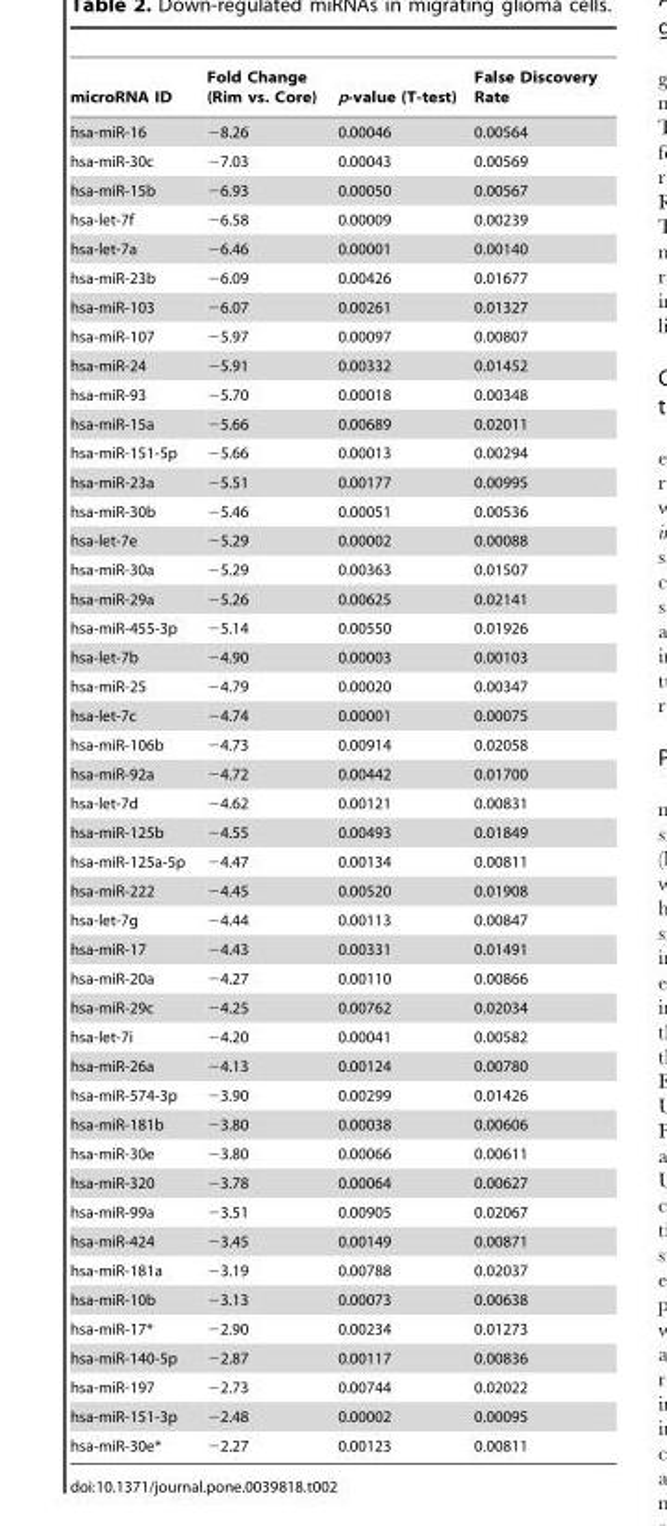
<table><thead><tr><td>microRNA ID</td><td>Fold Change (Rim vs. Core)</td><td>p-value (T-test)</td><td>False Discovery Rate</td></tr></thead><tbody><tr><td>hsa-miR-16</td><td>−8.26</td><td>0.00046</td><td>0.00564</td></tr><tr><td>hsa-miR-30c</td><td>−7.03</td><td>0.00043</td><td>0.00569</td></tr><tr><td>hsa-miR-15b</td><td>−6.93</td><td>0.00050</td><td>0.00567</td></tr><tr><td>hsa-let-7f</td><td>−6.58</td><td>0.00009</td><td>0.00239</td></tr><tr><td>hsa-let-7a</td><td>−6.46</td><td>0.00001</td><td>0.00140</td></tr><tr><td>hsa-miR-23b</td><td>−6.09</td><td>0.00426</td><td>0.01677</td></tr><tr><td>hsa-miR-103</td><td>−6.07</td><td>0.00261</td><td>0.01327</td></tr><tr><td>hsa-miR-107</td><td>−5.97</td><td>0.00097</td><td>0.00807</td></tr><tr><td>hsa-miR-24</td><td>−5.91</td><td>0.00332</td><td>0.01452</td></tr><tr><td>hsa-miR-93</td><td>−5.70</td><td>0.00018</td><td>0.00348</td></tr><tr><td>hsa-miR-15a</td><td>−5.66</td><td>0.00689</td><td>0.02011</td></tr><tr><td>hsa-miR-151-5p</td><td>−5.66</td><td>0.00013</td><td>0.00294</td></tr><tr><td>hsa-miR-23a</td><td>−5.51</td><td>0.00177</td><td>0.00995</td></tr><tr><td>hsa-miR-30b</td><td>−5.46</td><td>0.00051</td><td>0.00536</td></tr><tr><td>hsa-let-7e</td><td>−5.29</td><td>0.00002</td><td>0.00088</td></tr><tr><td>hsa-miR-30a</td><td>−5.29</td><td>0.00363</td><td>0.01507</td></tr><tr><td>hsa-miR-29a</td><td>−5.26</td><td>0.00625</td><td>0.02141</td></tr><tr><td>hsa-miR-455-3p</td><td>−5.14</td><td>0.00550</td><td>0.01926</td></tr><tr><td>hsa-let-7b</td><td>−4.90</td><td>0.00003</td><td>0.00103</td></tr><tr><td>hsa-miR-25</td><td>−4.79</td><td>0.00020</td><td>0.00347</td></tr><tr><td>hsa-let-7c</td><td>−4.74</td><td>0.00001</td><td>0.00075</td></tr><tr><td>hsa-miR-106b</td><td>−4.73</td><td>0.00914</td><td>0.02058</td></tr><tr><td>hsa-miR-92a</td><td>−4.72</td><td>0.00442</td><td>0.01700</td></tr><tr><td>hsa-let-7d</td><td>−4.62</td><td>0.00121</td><td>0.00831</td></tr><tr><td>hsa-miR-125b</td><td>−4.55</td><td>0.00493</td><td>0.01849</td></tr><tr><td>hsa-miR-125a-5p</td><td>−4.47</td><td>0.00134</td><td>0.00811</td></tr><tr><td>hsa-miR-222</td><td>−4.45</td><td>0.00520</td><td>0.01908</td></tr><tr><td>hsa-let-7g</td><td>−4.44</td><td>0.00113</td><td>0.00847</td></tr><tr><td>hsa-miR-17</td><td>−4.43</td><td>0.00331</td><td>0.01491</td></tr><tr><td>hsa-miR-20a</td><td>−4.27</td><td>0.00110</td><td>0.00866</td></tr><tr><td>hsa-miR-29c</td><td>−4.25</td><td>0.00762</td><td>0.02034</td></tr><tr><td>hsa-let-7i</td><td>−4.20</td><td>0.00041</td><td>0.00582</td></tr><tr><td>hsa-miR-26a</td><td>−4.13</td><td>0.00124</td><td>0.00780</td></tr><tr><td>hsa-miR-574-3p</td><td>−3.90</td><td>0.00299</td><td>0.01426</td></tr><tr><td>hsa-miR-181b</td><td>−3.80</td><td>0.00038</td><td>0.00606</td></tr><tr><td>hsa-miR-30e</td><td>−3.80</td><td>0.00066</td><td>0.00611</td></tr><tr><td>hsa-miR-320</td><td>−3.78</td><td>0.00064</td><td>0.00627</td></tr><tr><td>hsa-miR-99a</td><td>−3.51</td><td>0.00905</td><td>0.02067</td></tr><tr><td>hsa-miR-424</td><td>−3.45</td><td>0.00149</td><td>0.00871</td></tr><tr><td>hsa-miR-181a</td><td>−3.19</td><td>0.00788</td><td>0.02037</td></tr><tr><td>hsa-miR-10b</td><td>−3.13</td><td>0.00073</td><td>0.00638</td></tr><tr><td>hsa-miR-17*</td><td>−2.90</td><td>0.00234</td><td>0.01273</td></tr><tr><td>hsa-miR-140-5p</td><td>−2.87</td><td>0.00117</td><td>0.00836</td></tr><tr><td>hsa-miR-197</td><td>−2.73</td><td>0.00744</td><td>0.02022</td></tr><tr><td>hsa-miR-151-3p</td><td>−2.48</td><td>0.00002</td><td>0.00095</td></tr><tr><td>hsa-miR-30e*</td><td>−2.27</td><td>0.00123</td><td>0.00811</td></tr></tbody></table>